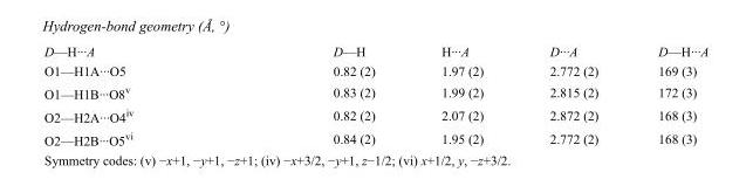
<table><tbody><tr><td>D—H···A</td><td>D—H</td><td>H···A</td><td>D···A</td><td>D—H···A</td></tr><tr><td>O1—H1A···O5</td><td>0.82 (2)</td><td>1.97 (2)</td><td>2.772 (2)</td><td>169 (3)</td></tr><tr><td>O1—H1B···O8<sup>v</sup></td><td>0.83 (2)</td><td>1.99 (2)</td><td>2.815 (2)</td><td>172 (3)</td></tr><tr><td>O2—H2A···O4<sup>iv</sup></td><td>0.82 (2)</td><td>2.07 (2)</td><td>2.872 (2)</td><td>168 (3)</td></tr><tr><td>O2—H2B···O5<sup>vi</sup></td><td>0.84 (2)</td><td>1.95 (2)</td><td>2.772 (2)</td><td>168 (3)</td></tr></tbody></table>